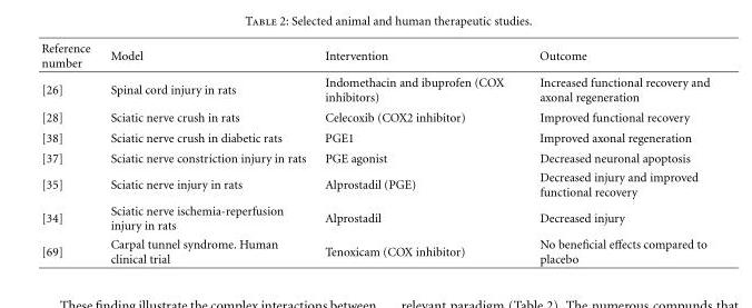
<table><thead><tr><td>Reference number</td><td>Model</td><td>Intervention</td><td>Outcome</td></tr></thead><tbody><tr><td>[26]</td><td>Spinal cord injury in rats</td><td>Indomethacin and ibuprofen (COX inhibitors)</td><td>Increased functional recovery and axonal regeneration</td></tr><tr><td>[28]</td><td>Sciatic nerve crush in rats</td><td>Celecoxib (COX2 inhibitor)</td><td>Improved functional recovery</td></tr><tr><td>[38]</td><td>Sciatic nerve crush in diabetic rats</td><td>PGE1</td><td>Improved axonal regeneration</td></tr><tr><td>[37]</td><td>Sciatic nerve constriction injury in rats</td><td>PGE agonist</td><td>Decreased neuronal apoptosis</td></tr><tr><td>[35]</td><td>Sciatic nerve injury in rats</td><td>Alprostadil (PGE)</td><td>Decreased injury and improved functional recovery</td></tr><tr><td>[34]</td><td>Sciatic nerve ischemia-reperfusion injury in rats</td><td>Alprostadil</td><td>Decreased injury</td></tr><tr><td>[69]</td><td>Carpal tunnel syndrome. Human clinical trial</td><td>Tenoxicam (COX inhibitor)</td><td>No beneficial effects compared to placebo</td></tr></tbody></table>